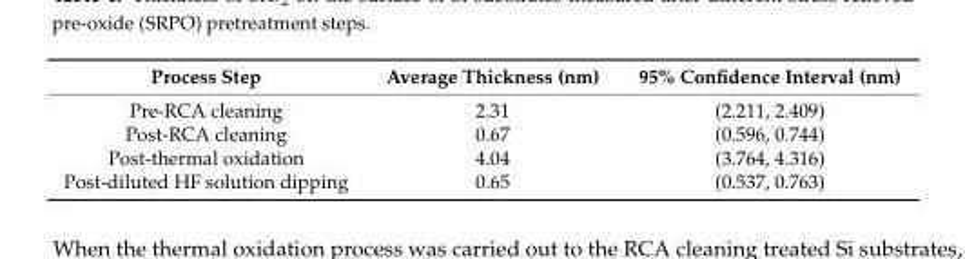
<table><thead><tr><td>Process Step</td><td>Average Thickness (nm)</td><td>95% Confidence Interval (nm)</td></tr></thead><tbody><tr><td>Pre-RCA cleaning</td><td>2.31</td><td>(2.211, 2.409)</td></tr><tr><td>Post-RCA cleaning</td><td>0.67</td><td>(0.596, 0.744)</td></tr><tr><td>Post-thermal oxidation</td><td>4.04</td><td>(3.764, 4.316)</td></tr><tr><td>Post-diluted HF solution dipping</td><td>0.65</td><td>(0.537, 0.763)</td></tr></tbody></table>